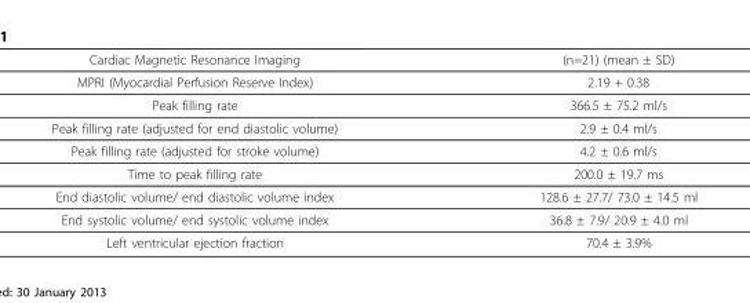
<table><thead><tr><td>Cardiac Magnetic Resonance Imaging</td><td>(n=21) (mean ± SD)</td></tr></thead><tbody><tr><td>MPRI (Myocardial Perfusion Reserve Index)</td><td>2.19 + 0.38</td></tr><tr><td>Peak filling rate</td><td>366.5 ± 75.2 ml/s</td></tr><tr><td>Peak filling rate (adjusted for end diastolic volume)</td><td>2.9 ± 0.4 ml/s</td></tr><tr><td>Peak filling rate (adjusted for stroke volume)</td><td>4.2 ± 0.6 ml/s</td></tr><tr><td>Time to peak filling rate</td><td>200.0 ± 19.7 ms</td></tr><tr><td>End diastolic volume/ end diastolic volume index</td><td>128.6 ± 27.7/ 73.0 ± 14.5 ml</td></tr><tr><td>End systolic volume/ end systolic volume index</td><td>36.8 ± 7.9/ 20.9 ± 4.0 ml</td></tr><tr><td>Left ventricular ejection fraction</td><td>70.4 ± 3.9%</td></tr></tbody></table>